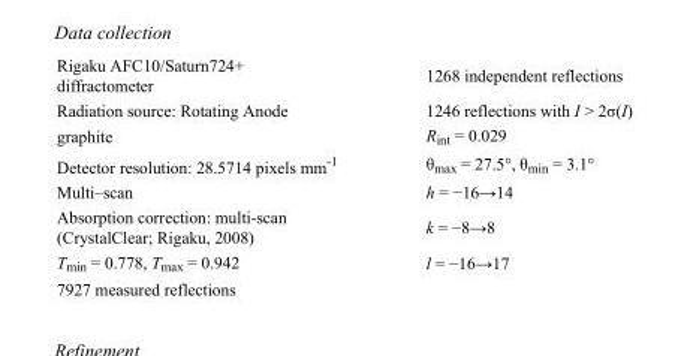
<table><tbody><tr><td>Rigaku AFC10/Saturn724+ diffractometer</td><td>1268 independent reflections</td></tr><tr><td>Radiation source: Rotating Anode</td><td>1246 reflections with I &gt; 2σ(I)</td></tr><tr><td>graphite</td><td>R<sub>int</sub> = 0.029</td></tr><tr><td>Detector resolution: 28.5714 pixels mm<sup>-1</sup></td><td>θ<sub>max</sub> = 27.5°, θ<sub>min</sub> = 3.1°</td></tr><tr><td>Multi–scan</td><td>h = −16→14</td></tr><tr><td>Absorption correction: multi-scan (CrystalClear; Rigaku, 2008)</td><td>k = −8→8</td></tr><tr><td>T<sub>min</sub> = 0.778, T<sub>max</sub> = 0.942</td><td>l = −16→17</td></tr><tr><td>7927 measured reflections</td><td></td></tr></tbody></table>